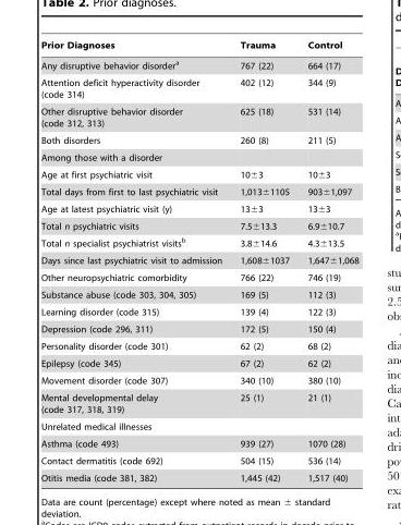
<table><thead><tr><td>Prior Diagnoses</td><td>Trauma</td><td>Control</td></tr></thead><tbody><tr><td>Any disruptive behavior disorder<sup>a</sup></td><td>767 (22)</td><td>664 (17)</td></tr><tr><td>Attention deficit hyperactivity disorder (code 314)</td><td>402 (12)</td><td>344 (9)</td></tr><tr><td>Other disruptive behavior disorder (code 312, 313)</td><td>625 (18)</td><td>531 (14)</td></tr><tr><td>Both disorders</td><td>260 (8)</td><td>211 (5)</td></tr><tr><td colspan="3">Among those with a disorder</td></tr><tr><td>Age at first psychiatric visit</td><td>10±3</td><td>10±3</td></tr><tr><td>Total days from first to last psychiatric visit</td><td>1,013±1105</td><td>903±1,097</td></tr><tr><td>Age at latest psychiatric visit (y)</td><td>13±3</td><td>13±3</td></tr><tr><td>Total n psychiatric visits</td><td>7.5±13.3</td><td>6.9±10.7</td></tr><tr><td>Total n specialist psychiatrist visits<sup>b</sup></td><td>3.8±14.6</td><td>4.3±13.5</td></tr><tr><td>Days since last psychiatric visit to admission</td><td>1,608±1037</td><td>1,647±1,068</td></tr><tr><td>Other neuropsychiatric comorbidity</td><td>766 (22)</td><td>746 (19)</td></tr><tr><td>Substance abuse (code 303, 304, 305)</td><td>169 (5)</td><td>112 (3)</td></tr><tr><td>Learning disorder (code 315)</td><td>139 (4)</td><td>122 (3)</td></tr><tr><td>Depression (code 296, 311)</td><td>172 (5)</td><td>150 (4)</td></tr><tr><td>Personality disorder (code 301)</td><td>62 (2)</td><td>68 (2)</td></tr><tr><td>Epilepsy (code 345)</td><td>67 (2)</td><td>62 (2)</td></tr><tr><td>Movement disorder (code 307)</td><td>340 (10)</td><td>380 (10)</td></tr><tr><td>Mental developmental delay (code 317, 318, 319)</td><td>25 (1)</td><td>21 (1)</td></tr><tr><td colspan="3">Unrelated medical illnesses</td></tr><tr><td>Asthma (code 493)</td><td>939 (27)</td><td>1070 (28)</td></tr><tr><td>Contact dermatitis (code 692)</td><td>504 (15)</td><td>536 (14)</td></tr><tr><td>Otitis media (code 381, 382)</td><td>1,445 (42)</td><td>1,517 (40)</td></tr></tbody></table>